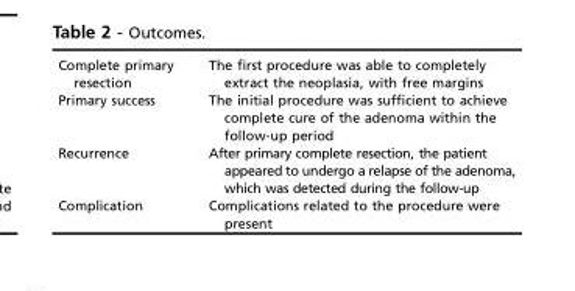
<table><tbody><tr><td>Complete primary resection</td><td>The first procedure was able to completely extract the neoplasia, with free margins</td></tr><tr><td>Primary success</td><td>The initial procedure was sufficient to achieve complete cure of the adenoma within the follow-up period</td></tr><tr><td>Recurrence</td><td>After primary complete resection, the patient appeared to undergo a relapse of the adenoma, which was detected during the follow-up</td></tr><tr><td>Complication</td><td>Complications related to the procedure were present</td></tr></tbody></table>